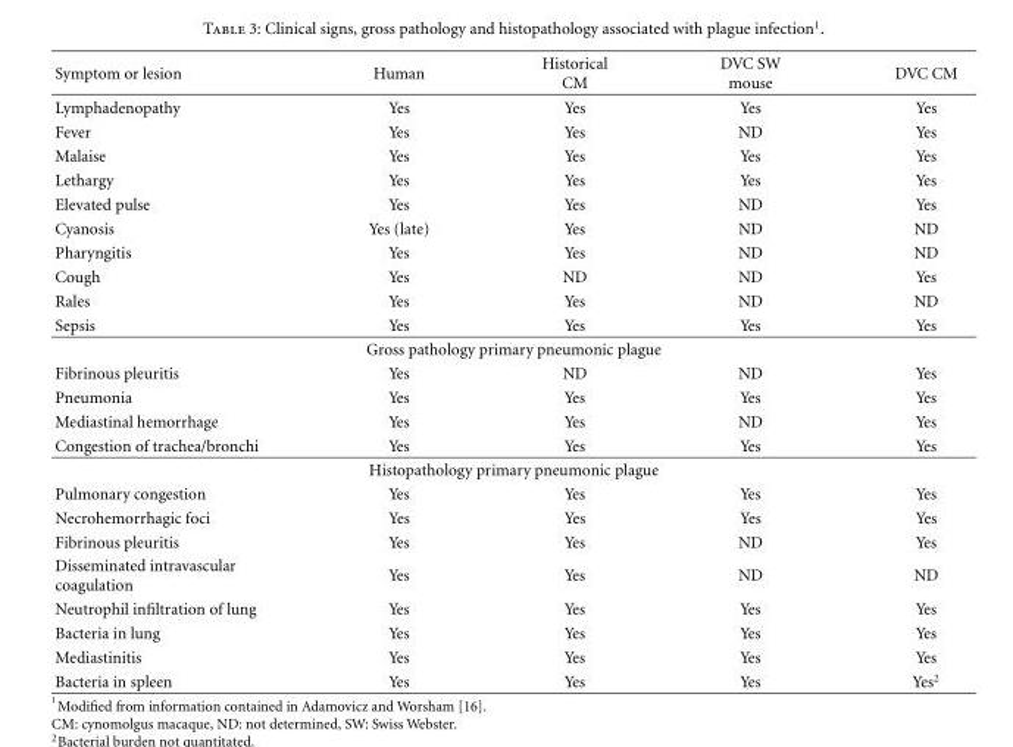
<table><thead><tr><td>Symptom or lesion</td><td>Human</td><td>Historical CM</td><td>DVC SW mouse</td><td>DVC CM</td></tr></thead><tbody><tr><td>Lymphadenopathy</td><td>Yes</td><td>Yes</td><td>Yes</td><td>Yes</td></tr><tr><td>Fever</td><td>Yes</td><td>Yes</td><td>ND</td><td>Yes</td></tr><tr><td>Malaise</td><td>Yes</td><td>Yes</td><td>Yes</td><td>Yes</td></tr><tr><td>Lethargy</td><td>Yes</td><td>Yes</td><td>Yes</td><td>Yes</td></tr><tr><td>Elevated pulse</td><td>Yes</td><td>Yes</td><td>ND</td><td>Yes</td></tr><tr><td>Cyanosis</td><td>Yes (late)</td><td>Yes</td><td>ND</td><td>ND</td></tr><tr><td>Pharyngitis</td><td>Yes</td><td>Yes</td><td>ND</td><td>ND</td></tr><tr><td>Cough</td><td>Yes</td><td>ND</td><td>ND</td><td>Yes</td></tr><tr><td>Rales</td><td>Yes</td><td>Yes</td><td>ND</td><td>ND</td></tr><tr><td>Sepsis</td><td>Yes</td><td>Yes</td><td>Yes</td><td>Yes</td></tr><tr><td colspan="5">Gross pathology primary pneumonic plague</td></tr><tr><td>Fibrinous pleuritis</td><td>Yes</td><td>ND</td><td>ND</td><td>Yes</td></tr><tr><td>Pneumonia</td><td>Yes</td><td>Yes</td><td>Yes</td><td>Yes</td></tr><tr><td>Mediastinal hemorrhage</td><td>Yes</td><td>Yes</td><td>ND</td><td>Yes</td></tr><tr><td>Congestion of trachea/bronchi</td><td>Yes</td><td>Yes</td><td>Yes</td><td>Yes</td></tr><tr><td colspan="5">Histopathology primary pneumonic plague</td></tr><tr><td>Pulmonary congestion</td><td>Yes</td><td>Yes</td><td>Yes</td><td>Yes</td></tr><tr><td>Necrohemorrhagic foci</td><td>Yes</td><td>Yes</td><td>Yes</td><td>Yes</td></tr><tr><td>Fibrinous pleuritis</td><td>Yes</td><td>Yes</td><td>ND</td><td>Yes</td></tr><tr><td>Disseminated intravascular coagulation</td><td>Yes</td><td>Yes</td><td>ND</td><td>ND</td></tr><tr><td>Neutrophil infiltration of lung</td><td>Yes</td><td>Yes</td><td>Yes</td><td>Yes</td></tr><tr><td>Bacteria in lung</td><td>Yes</td><td>Yes</td><td>Yes</td><td>Yes</td></tr><tr><td>Mediastinitis</td><td>Yes</td><td>Yes</td><td>Yes</td><td>Yes</td></tr><tr><td>Bacteria in spleen</td><td>Yes</td><td>Yes</td><td>Yes</td><td>Yes2</td></tr></tbody></table>